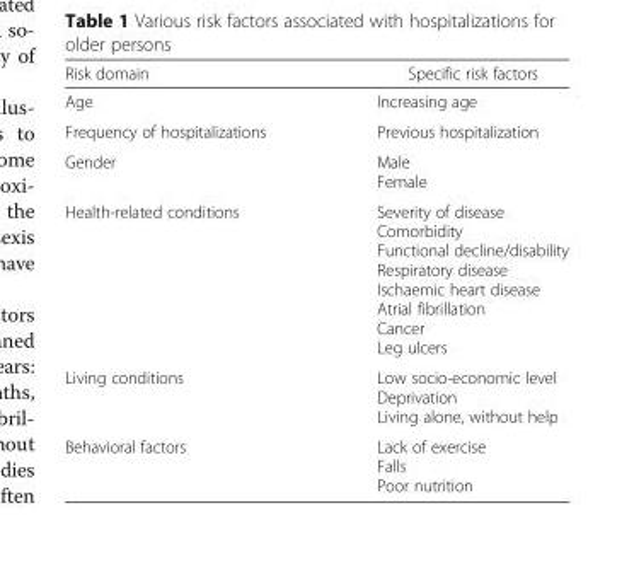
<table><thead><tr><td>Risk domain</td><td>Specific risk factors</td></tr></thead><tbody><tr><td>Age</td><td>Increasing age</td></tr><tr><td>Frequency of hospitalizations</td><td>Previous hospitalization</td></tr><tr><td>Gender</td><td>Male Female</td></tr><tr><td>Health-related conditions</td><td>Severity of disease Comorbidity Functional decline/disability Respiratory disease Ischaemic heart disease Atrial fibrillation Cancer Leg ulcers</td></tr><tr><td>Living conditions</td><td>Low socio-economic level Deprivation Living alone, without help</td></tr><tr><td>Behavioral factors</td><td>Lack of exercise Falls Poor nutrition</td></tr></tbody></table>